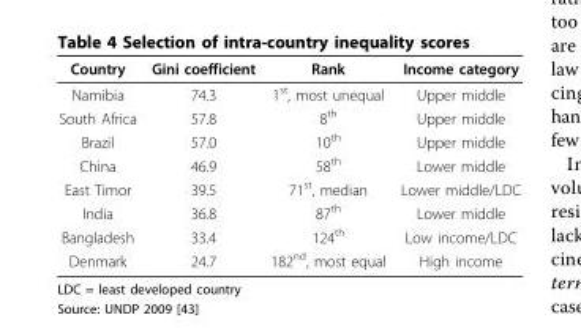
<table><thead><tr><td>Country</td><td>Gini coefficient</td><td>Rank</td><td>Income category</td></tr></thead><tbody><tr><td>Namibia</td><td>74.3</td><td>1<sup>st</sup>, most unequal</td><td>Upper middle</td></tr><tr><td>South Africa</td><td>57.8</td><td>8<sup>th</sup></td><td>Upper middle</td></tr><tr><td>Brazil</td><td>57.0</td><td>10<sup>th</sup></td><td>Upper middle</td></tr><tr><td>China</td><td>46.9</td><td>58<sup>th</sup></td><td>Lower middle</td></tr><tr><td>East Timor</td><td>39.5</td><td>71<sup>st</sup>, median</td><td>Lower middle/LDC</td></tr><tr><td>India</td><td>36.8</td><td>87<sup>th</sup></td><td>Lower middle</td></tr><tr><td>Bangladesh</td><td>33.4</td><td>124<sup>th</sup></td><td>Low income/LDC</td></tr><tr><td>Denmark</td><td>24.7</td><td>182<sup>nd</sup>, most equal</td><td>High income</td></tr></tbody></table>